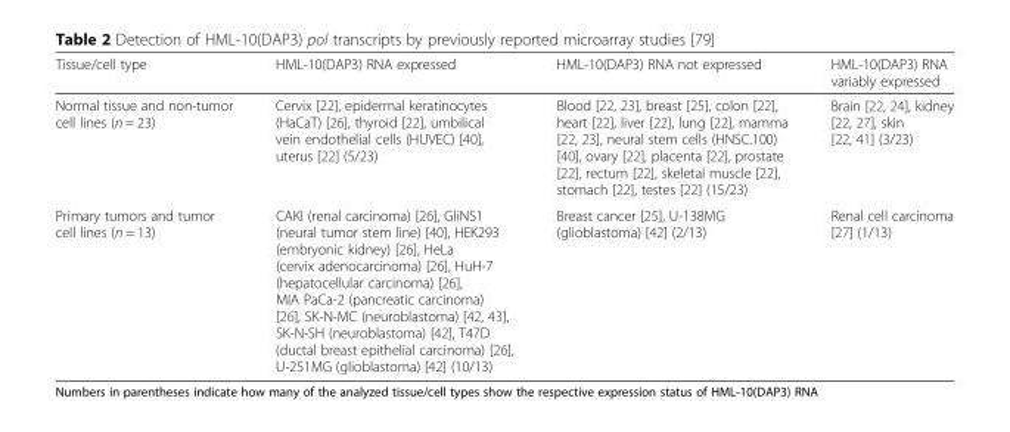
<table><thead><tr><td>Tissue/cell type</td><td>HML-10(DAP3) RNA expressed</td><td>HML-10(DAP3) RNA not expressed</td><td>HML-10(DAP3) RNA variably expressed</td></tr></thead><tbody><tr><td>Normal tissue and non-tumor cell lines (n = 23)</td><td>Cervix [22], epidermal keratinocytes (HaCaT) [26], thyroid [22], umbilical vein endothelial cells (HUVEC) [40], uterus [22] (5/23)</td><td>Blood [22, 23], breast [25], colon [22], heart [22], liver [22], lung [22], mamma [22, 23], neural stem cells (HNSC.100) [40], ovary [22], placenta [22], prostate [22], rectum [22], skeletal muscle [22], stomach [22], testes [22] (15/23)</td><td>Brain [22, 24], kidney [22, 27], skin [22, 41] (3/23)</td></tr><tr><td>Primary tumors and tumor cell lines (n = 13)</td><td>CAKI (renal carcinoma) [26], GliNS1 (neural tumor stem line) [40], HEK293 (embryonic kidney) [26], HeLa (cervix adenocarcinoma) [26], HuH-7 (hepatocellular carcinoma) [26], MIA PaCa-2 (pancreatic carcinoma) [26], SK-N-MC (neuroblastoma) [42, 43], SK-N-SH (neuroblastoma) [42], T47D (ductal breast epithelial carcinoma) [26], U-251MG (glioblastoma) [42] (10/13)</td><td>Breast cancer [25], U-138MG (glioblastoma) [42] (2/13)</td><td>Renal cell carcinoma [27] (1/13)</td></tr></tbody></table>